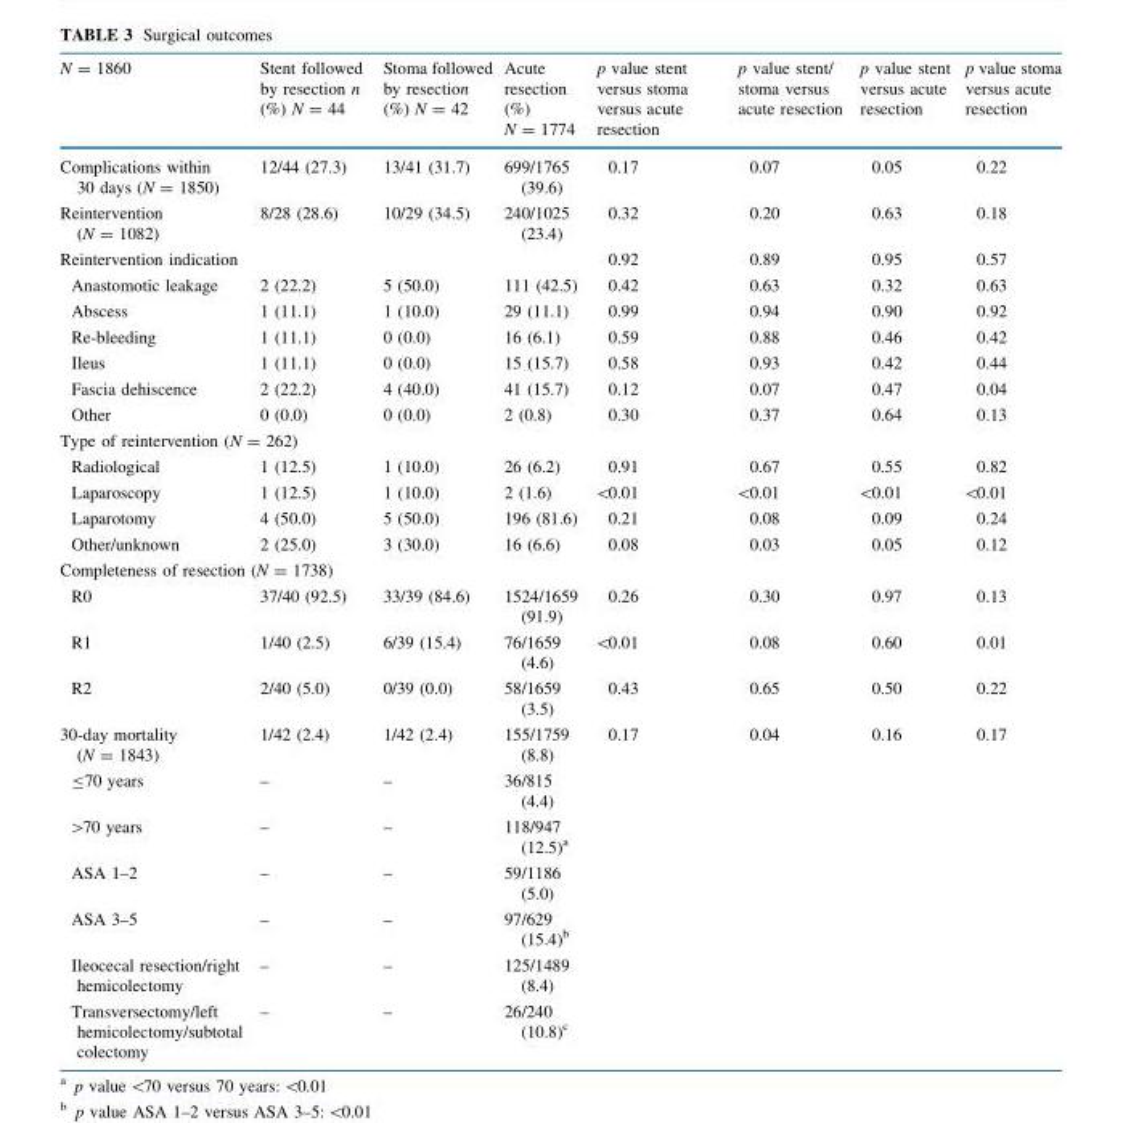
<table><thead><tr><td>N = 1860</td><td>Stent followed by resection n (%) N = 44</td><td>Stoma followed by resection (%) N = 42</td><td>Acute resection (%) N = 1774</td><td>p value stent versus stoma versus acute resection</td><td>p value stent/ stoma versus acute resection</td><td>p value stent versus acute resection</td><td>p value stoma versus acute resection</td></tr></thead><tbody><tr><td>Complications within 30 days (N = 1850)</td><td>12/44 (27.3)</td><td>13/41 (31.7)</td><td>699/1765 (39.6)</td><td>0.17</td><td>0.07</td><td>0.05</td><td>0.22</td></tr><tr><td>Reintervention (N = 1082)</td><td>8/28 (28.6)</td><td>10/29 (34.5)</td><td>240/1025 (23.4)</td><td>0.32</td><td>0.20</td><td>0.63</td><td>0.18</td></tr><tr><td>Reintervention indication</td><td></td><td></td><td></td><td>0.92</td><td>0.89</td><td>0.95</td><td>0.57</td></tr><tr><td>Anastomotic leakage</td><td>2 (22.2)</td><td>5 (50.0)</td><td>111 (42.5)</td><td>0.42</td><td>0.63</td><td>0.32</td><td>0.63</td></tr><tr><td>Abscess</td><td>1 (11.1)</td><td>1 (10.0)</td><td>29 (11.1)</td><td>0.99</td><td>0.94</td><td>0.90</td><td>0.92</td></tr><tr><td>Re-bleeding</td><td>1 (11.1)</td><td>0 (0.0)</td><td>16 (6.1)</td><td>0.59</td><td>0.88</td><td>0.46</td><td>0.42</td></tr><tr><td>Ileus</td><td>1 (11.1)</td><td>0 (0.0)</td><td>15 (15.7)</td><td>0.58</td><td>0.93</td><td>0.42</td><td>0.44</td></tr><tr><td>Fascia dehiscence</td><td>2 (22.2)</td><td>4 (40.0)</td><td>41 (15.7)</td><td>0.12</td><td>0.07</td><td>0.47</td><td>0.04</td></tr><tr><td>Other</td><td>0 (0.0)</td><td>0 (0.0)</td><td>2 (0.8)</td><td>0.30</td><td>0.37</td><td>0.64</td><td>0.13</td></tr><tr><td colspan="8">Type of reintervention (N = 262)</td></tr><tr><td>Radiological</td><td>1 (12.5)</td><td>1 (10.0)</td><td>26 (6.2)</td><td>0.91</td><td>0.67</td><td>0.55</td><td>0.82</td></tr><tr><td>Laparoscopy</td><td>1 (12.5)</td><td>1 (10.0)</td><td>2 (1.6)</td><td>&lt;0.01</td><td>&lt;0.01</td><td>&lt;0.01</td><td>&lt;0.01</td></tr><tr><td>Laparotomy</td><td>4 (50.0)</td><td>5 (50.0)</td><td>196 (81.6)</td><td>0.21</td><td>0.08</td><td>0.09</td><td>0.24</td></tr><tr><td>Other/unknown</td><td>2 (25.0)</td><td>3 (30.0)</td><td>16 (6.6)</td><td>0.08</td><td>0.03</td><td>0.05</td><td>0.12</td></tr><tr><td colspan="8">Completeness of resection (N = 1738)</td></tr><tr><td>R0</td><td>37/40 (92.5)</td><td>33/39 (84.6)</td><td>1524/1659 (91.9)</td><td>0.26</td><td>0.30</td><td>0.97</td><td>0.13</td></tr><tr><td>R1</td><td>1/40 (2.5)</td><td>6/39 (15.4)</td><td>76/1659 (4.6)</td><td>&lt;0.01</td><td>0.08</td><td>0.60</td><td>0.01</td></tr><tr><td>R2</td><td>2/40 (5.0)</td><td>0/39 (0.0)</td><td>58/1659 (3.5)</td><td>0.43</td><td>0.65</td><td>0.50</td><td>0.22</td></tr><tr><td>30-day mortality (N = 1843)</td><td>1/42 (2.4)</td><td>1/42 (2.4)</td><td>155/1759 (8.8)</td><td>0.17</td><td>0.04</td><td>0.16</td><td>0.17</td></tr><tr><td>≤70 years</td><td>–</td><td>–</td><td>36/815 (4.4)</td><td></td><td></td><td></td><td></td></tr><tr><td>&gt;70 years</td><td>–</td><td>–</td><td>118/947 (12.5)<sup>a</sup></td><td></td><td></td><td></td><td></td></tr><tr><td>ASA 1–2</td><td>–</td><td>–</td><td>59/1186 (5.0)</td><td></td><td></td><td></td><td></td></tr><tr><td>ASA 3–5</td><td>–</td><td>–</td><td>97/629 (15.4)<sup>b</sup></td><td></td><td></td><td></td><td></td></tr><tr><td>Ileocecal resection/right hemicolectomy</td><td>–</td><td>–</td><td>125/1489 (8.4)</td><td></td><td></td><td></td><td></td></tr><tr><td>Transversectomy/left hemicolectomy/subtotal colectomy</td><td>–</td><td>–</td><td>26/240 (10.8)<sup>c</sup></td><td></td><td></td><td></td><td></td></tr></tbody></table>